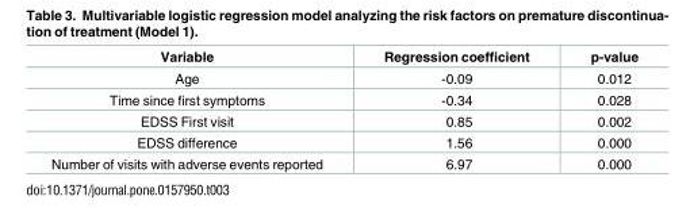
<table><thead><tr><td>Variable</td><td>Regression coefficient</td><td>p-value</td></tr></thead><tbody><tr><td>Age</td><td>-0.09</td><td>0.012</td></tr><tr><td>Time since first symptoms</td><td>-0.34</td><td>0.028</td></tr><tr><td>EDSS First visit</td><td>0.85</td><td>0.002</td></tr><tr><td>EDSS difference</td><td>1.56</td><td>0.000</td></tr><tr><td>Number of visits with adverse events reported</td><td>6.97</td><td>0.000</td></tr></tbody></table>